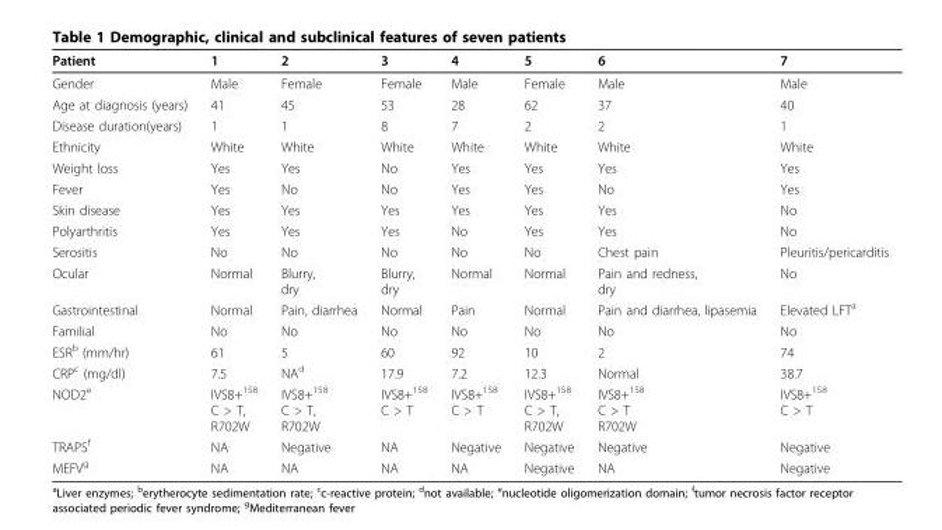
<table><thead><tr><td>Patient</td><td>1</td><td>2</td><td>3</td><td>4</td><td>5</td><td>6</td><td>7</td></tr></thead><tbody><tr><td>Gender</td><td>Male</td><td>Female</td><td>Female</td><td>Male</td><td>Female</td><td>Male</td><td>Male</td></tr><tr><td>Age at diagnosis (years)</td><td>41</td><td>45</td><td>53</td><td>28</td><td>62</td><td>37</td><td>40</td></tr><tr><td>Disease duration(years)</td><td>1</td><td>1</td><td>8</td><td>7</td><td>2</td><td>2</td><td>1</td></tr><tr><td>Ethnicity</td><td>White</td><td>White</td><td>White</td><td>White</td><td>White</td><td>White</td><td>White</td></tr><tr><td>Weight loss</td><td>Yes</td><td>Yes</td><td>No</td><td>Yes</td><td>Yes</td><td>Yes</td><td>Yes</td></tr><tr><td>Fever</td><td>Yes</td><td>No</td><td>No</td><td>Yes</td><td>Yes</td><td>No</td><td>Yes</td></tr><tr><td>Skin disease</td><td>Yes</td><td>Yes</td><td>Yes</td><td>Yes</td><td>Yes</td><td>Yes</td><td>No</td></tr><tr><td>Polyarthritis</td><td>Yes</td><td>Yes</td><td>Yes</td><td>No</td><td>Yes</td><td>Yes</td><td>No</td></tr><tr><td>Serositis</td><td>No</td><td>No</td><td>No</td><td>No</td><td>No</td><td>Chest pain</td><td>Pleuritis/pericarditis</td></tr><tr><td>Ocular</td><td>Normal</td><td>Blurry, dry</td><td>Blurry, dry</td><td>Normal</td><td>Normal</td><td>Pain and redness, dry</td><td>No</td></tr><tr><td>Gastrointestinal</td><td>Normal</td><td>Pain, diarrhea</td><td>Normal</td><td>Pain</td><td>Normal</td><td>Pain and diarrhea, lipasemia</td><td>Elevated LFT<sup>a</sup></td></tr><tr><td>Familial</td><td>No</td><td>No</td><td>No</td><td>No</td><td>No</td><td>No</td><td>No</td></tr><tr><td>ESR<sup>b</sup> (mm/hr)</td><td>61</td><td>5</td><td>60</td><td>92</td><td>10</td><td>2</td><td>74</td></tr><tr><td>CRP<sup>c</sup> (mg/dl)</td><td>7.5</td><td>NA<sup>d</sup></td><td>17.9</td><td>7.2</td><td>12.3</td><td>Normal</td><td>38.7</td></tr><tr><td>NOD2<sup>e</sup></td><td>IVS8+<sup>158</sup> C &gt; T, R702W</td><td>IVS8+<sup>158</sup> C &gt; T, R702W</td><td>IVS8+<sup>158</sup> C &gt; T</td><td>IVS8+<sup>158</sup> C &gt; T</td><td>IVS8+<sup>158</sup> C &gt; T, R702W</td><td>IVS8+<sup>158</sup> C &gt; T R702W</td><td>IVS8+<sup>158</sup> C &gt; T</td></tr><tr><td>TRAPS<sup>f</sup></td><td>NA</td><td>Negative</td><td>NA</td><td>Negative</td><td>Negative</td><td>Negative</td><td>Negative</td></tr><tr><td>MEFV<sup>g</sup></td><td>NA</td><td>NA</td><td>NA</td><td>NA</td><td>Negative</td><td>NA</td><td>Negative</td></tr></tbody></table>